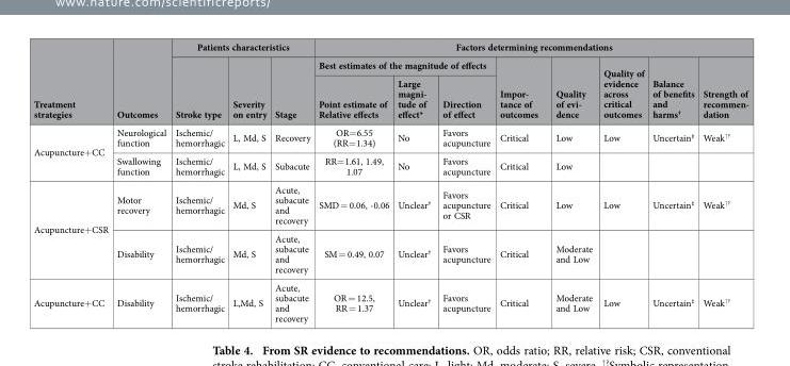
<table><thead><tr><td rowspan="3">Treatment strategies</td><td rowspan="3">Outcomes</td><td colspan="3">Patients characteristics</td><td colspan="8">Factors determining recommendations</td></tr><tr><td rowspan="2">Stroke type</td><td rowspan="2">Severity on entry</td><td rowspan="2">Stage</td><td colspan="3">Best estimates of the magnitude of effects</td><td rowspan="2">Impor- tance of outcomes</td><td rowspan="2">Quality of evi- dence</td><td rowspan="2">Quality of evidence across critical outcomes</td><td rowspan="2">Balance of benefits and harms†</td><td rowspan="2">Strength of recommen- dation</td></tr><tr><td>Point estimate of Relative effects</td><td>Large magni- tude of effect*</td><td>Direction of effect</td></tr></thead><tbody><tr><td rowspan="2">Acupuncture+ CC</td><td>Neurological function</td><td>Ischemic/ hemorrhagic</td><td>L, Md, S</td><td>Recovery</td><td>OR= 6.55 (RR= 1.34)</td><td>No</td><td>Favors acupuncture</td><td>Critical</td><td>Low</td><td>Low</td><td>Uncertain‡</td><td>Weak↑?</td></tr><tr><td>Swallowing function</td><td>Ischemic/ hemorrhagic</td><td>L, Md, S</td><td>Subacute</td><td>RR= 1.61, 1.49, 1.07</td><td>No</td><td>Favors acupuncture</td><td>Critical</td><td>Low</td><td></td><td></td><td></td></tr><tr><td rowspan="2">Acupuncture+ CSR</td><td>Motor recovery</td><td>Ischemic/ hemorrhagic</td><td>Md, S</td><td>Acute, subacute and recovery</td><td>SMD = 0.06, -0.06</td><td>Unclear†</td><td>Favors acupuncture or CSR</td><td>Critical</td><td>Low</td><td>Low</td><td>Uncertain‡</td><td>Weak↑?</td></tr><tr><td>Disability</td><td>Ischemic/ hemorrhagic</td><td>Md, S</td><td>Acute, subacute and recovery</td><td>SM = 0.49, 0.07</td><td>Unclear†</td><td>Favors acupuncture</td><td>Critical</td><td>Moderate and Low</td><td></td><td></td><td></td></tr><tr><td>Acupuncture+ CC</td><td>Disability</td><td>Ischemic/ hemorrhagic</td><td>L,Md, S</td><td>Acute, subacute and recovery</td><td>OR = 12.5, RR = 1.37</td><td>Unclear†</td><td>Favors acupuncture</td><td>Critical</td><td>Moderate and Low</td><td>Low</td><td>Uncertain‡</td><td>Weak↑?</td></tr></tbody></table>